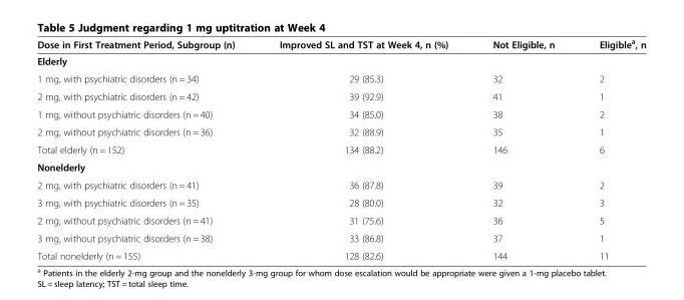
<table><thead><tr><td>Dose in First Treatment Period, Subgroup (n)</td><td>Improved SL and TST at Week 4, n (%)</td><td>Not Eligible, n</td><td>Eligible<sup>a</sup>, n</td></tr></thead><tbody><tr><td colspan="4">Elderly</td></tr><tr><td>1 mg, with psychiatric disorders (n = 34)</td><td>29 (85.3)</td><td>32</td><td>2</td></tr><tr><td>2 mg, with psychiatric disorders (n = 42)</td><td>39 (92.9)</td><td>41</td><td>1</td></tr><tr><td>1 mg, without psychiatric disorders (n = 40)</td><td>34 (85.0)</td><td>38</td><td>2</td></tr><tr><td>2 mg, without psychiatric disorders (n = 36)</td><td>32 (88.9)</td><td>35</td><td>1</td></tr><tr><td>Total elderly (n = 152)</td><td>134 (88.2)</td><td>146</td><td>6</td></tr><tr><td colspan="4">Nonelderly</td></tr><tr><td>2 mg, with psychiatric disorders (n = 41)</td><td>36 (87.8)</td><td>39</td><td>2</td></tr><tr><td>3 mg, with psychiatric disorders (n = 35)</td><td>28 (80.0)</td><td>32</td><td>3</td></tr><tr><td>2 mg, without psychiatric disorders (n = 41)</td><td>31 (75.6)</td><td>36</td><td>5</td></tr><tr><td>3 mg, without psychiatric disorders (n = 38)</td><td>33 (86.8)</td><td>37</td><td>1</td></tr><tr><td>Total nonelderly (n = 155)</td><td>128 (82.6)</td><td>144</td><td>11</td></tr></tbody></table>